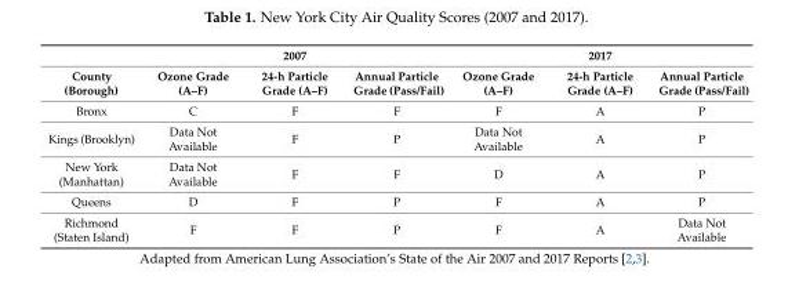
<table><thead><tr><td rowspan="2">County (Borough)</td><td colspan="3">2007</td><td colspan="3">2017</td></tr><tr><td>Ozone Grade (A–F)</td><td>24-h Particle Grade (A–F)</td><td>Annual Particle Grade (Pass/Fail)</td><td>Ozone Grade (A–F)</td><td>24-h Particle Grade (A–F)</td><td>Annual Particle Grade (Pass/Fail)</td></tr></thead><tbody><tr><td>Bronx</td><td>C</td><td>F</td><td>F</td><td>F</td><td>A</td><td>P</td></tr><tr><td>Kings (Brooklyn)</td><td>Data Not Available</td><td>F</td><td>P</td><td>Data Not Available</td><td>A</td><td>P</td></tr><tr><td>New York (Manhattan)</td><td>Data Not Available</td><td>F</td><td>F</td><td>D</td><td>A</td><td>P</td></tr><tr><td>Queens</td><td>D</td><td>F</td><td>P</td><td>F</td><td>A</td><td>P</td></tr><tr><td>Richmond (Staten Island)</td><td>F</td><td>F</td><td>P</td><td>F</td><td>A</td><td>Data Not Available</td></tr></tbody></table>